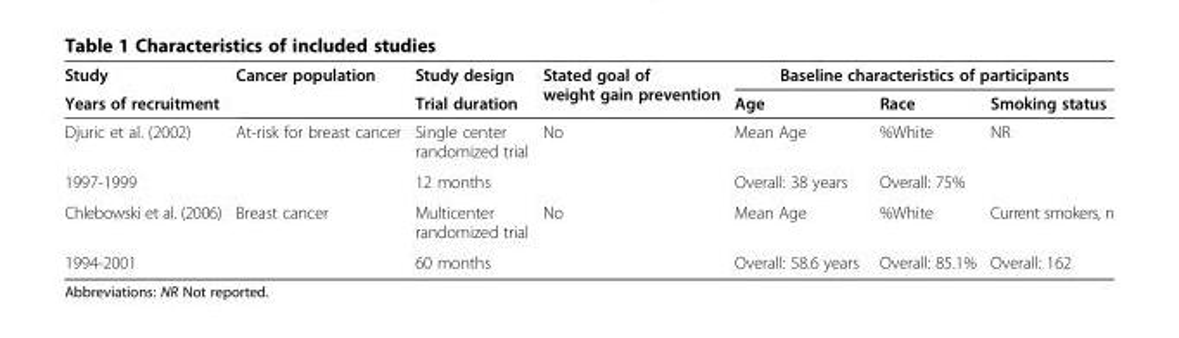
<table><thead><tr><td rowspan="2">Study Years of recruitment</td><td rowspan="2">Cancer population</td><td rowspan="2">Study design Trial duration</td><td rowspan="2">Stated goal of weight gain prevention</td><td colspan="3">Baseline characteristics of participants</td></tr><tr><td>Age</td><td>Race</td><td>Smoking status</td></tr></thead><tbody><tr><td>Djuric et al. (2002)</td><td>At-risk for breast cancer</td><td>Single center randomized trial</td><td rowspan="2">No</td><td>Mean Age</td><td>%White</td><td rowspan="2">NR</td></tr><tr><td>1997-1999</td><td></td><td>12 months</td><td>Overall: 38 years</td><td>Overall: 75%</td></tr><tr><td>Chlebowski et al. (2006)</td><td>Breast cancer</td><td>Multicenter randomized trial</td><td rowspan="2">No</td><td>Mean Age</td><td>%White</td><td>Current smokers, n</td></tr><tr><td>1994-2001</td><td></td><td>60 months</td><td>Overall: 58.6 years</td><td>Overall: 85.1%</td><td>Overall: 162</td></tr></tbody></table>